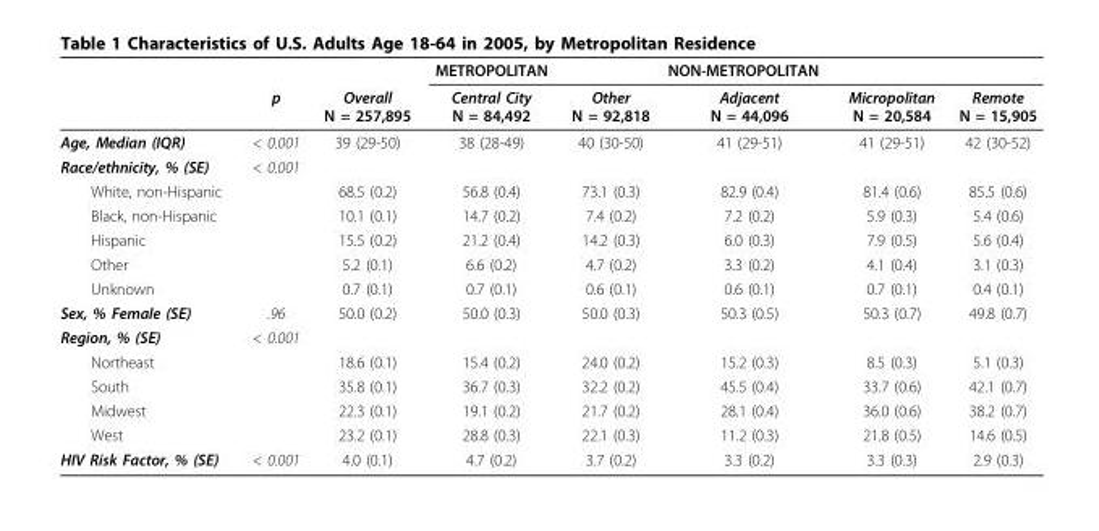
<table><thead><tr><td></td><td></td><td></td><td>METROPOLITAN</td><td></td><td>NON-METROPOLITAN</td><td></td><td></td></tr></thead><tbody><tr><td></td><td>p</td><td>Overall N = 257,895</td><td>Central City N = 84,492</td><td>Other N = 92,818</td><td>Adjacent N = 44,096</td><td>Micropolitan N = 20,584</td><td>Remote N = 15,905</td></tr><tr><td>Age, Median (IQR)</td><td>&lt; 0.001</td><td>39 (29-50)</td><td>38 (28-49)</td><td>40 (30-50)</td><td>41 (29-51)</td><td>41 (29-51)</td><td>42 (30-52)</td></tr><tr><td>Race/ethnicity, % (SE)</td><td>&lt; 0.001</td><td></td><td></td><td></td><td></td><td></td><td></td></tr><tr><td>White, non-Hispanic</td><td></td><td>68.5 (0.2)</td><td>56.8 (0.4)</td><td>73.1 (0.3)</td><td>82.9 (0.4)</td><td>81.4 (0.6)</td><td>85.5 (0.6)</td></tr><tr><td>Black, non-Hispanic</td><td></td><td>10.1 (0.1)</td><td>14.7 (0.2)</td><td>7.4 (0.2)</td><td>7.2 (0.2)</td><td>5.9 (0.3)</td><td>5.4 (0.6)</td></tr><tr><td>Hispanic</td><td></td><td>15.5 (0.2)</td><td>21.2 (0.4)</td><td>14.2 (0.3)</td><td>6.0 (0.3)</td><td>7.9 (0.5)</td><td>5.6 (0.4)</td></tr><tr><td>Other</td><td></td><td>5.2 (0.1)</td><td>6.6 (0.2)</td><td>4.7 (0.2)</td><td>3.3 (0.2)</td><td>4.1 (0.4)</td><td>3.1 (0.3)</td></tr><tr><td>Unknown</td><td></td><td>0.7 (0.1)</td><td>0.7 (0.1)</td><td>0.6 (0.1)</td><td>0.6 (0.1)</td><td>0.7 (0.1)</td><td>0.4 (0.1)</td></tr><tr><td>Sex, % Female (SE)</td><td>.96</td><td>50.0 (0.2)</td><td>50.0 (0.3)</td><td>50.0 (0.3)</td><td>50.3 (0.5)</td><td>50.3 (0.7)</td><td>49.8 (0.7)</td></tr><tr><td>Region, % (SE)</td><td>&lt; 0.001</td><td></td><td></td><td></td><td></td><td></td><td></td></tr><tr><td>Northeast</td><td></td><td>18.6 (0.1)</td><td>15.4 (0.2)</td><td>24.0 (0.2)</td><td>15.2 (0.3)</td><td>8.5 (0.3)</td><td>5.1 (0.3)</td></tr><tr><td>South</td><td></td><td>35.8 (0.1)</td><td>36.7 (0.3)</td><td>32.2 (0.2)</td><td>45.5 (0.4)</td><td>33.7 (0.6)</td><td>42.1 (0.7)</td></tr><tr><td>Midwest</td><td></td><td>22.3 (0.1)</td><td>19.1 (0.2)</td><td>21.7 (0.2)</td><td>28.1 (0.4)</td><td>36.0 (0.6)</td><td>38.2 (0.7)</td></tr><tr><td>West</td><td></td><td>23.2 (0.1)</td><td>28.8 (0.3)</td><td>22.1 (0.3)</td><td>11.2 (0.3)</td><td>21.8 (0.5)</td><td>14.6 (0.5)</td></tr><tr><td>HIV Risk Factor, % (SE)</td><td>&lt; 0.001</td><td>4.0 (0.1)</td><td>4.7 (0.2)</td><td>3.7 (0.2)</td><td>3.3 (0.2)</td><td>3.3 (0.3)</td><td>2.9 (0.3)</td></tr></tbody></table>